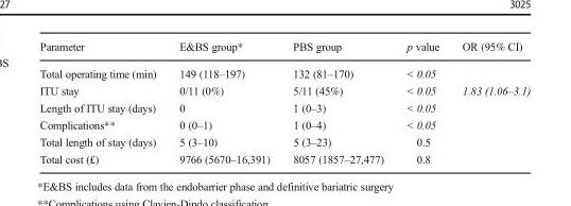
<table><thead><tr><td>Parameter</td><td>E&amp;BS group*</td><td>PBS group</td><td>p value</td><td>OR (95% CI)</td></tr></thead><tbody><tr><td>Total operating time (min)</td><td>149 (118–197)</td><td>132 (81–170)</td><td>&lt; 0.05</td><td></td></tr><tr><td>ITU stay</td><td>0/11 (0%)</td><td>5/11 (45%)</td><td>&lt; 0.05</td><td>1.83 (1.06–3.1)</td></tr><tr><td>Length of ITU stay (days)</td><td>0</td><td>1 (0–3)</td><td>&lt; 0.05</td><td></td></tr><tr><td>Complications**</td><td>0 (0–1)</td><td>1 (0–4)</td><td>&lt; 0.05</td><td></td></tr><tr><td>Total length of stay (days)</td><td>5 (3–10)</td><td>5 (3–23)</td><td>0.5</td><td></td></tr><tr><td>Total cost (£)</td><td>9766 (5670–16,391)</td><td>8057 (1857–27,477)</td><td>0.8</td><td></td></tr></tbody></table>